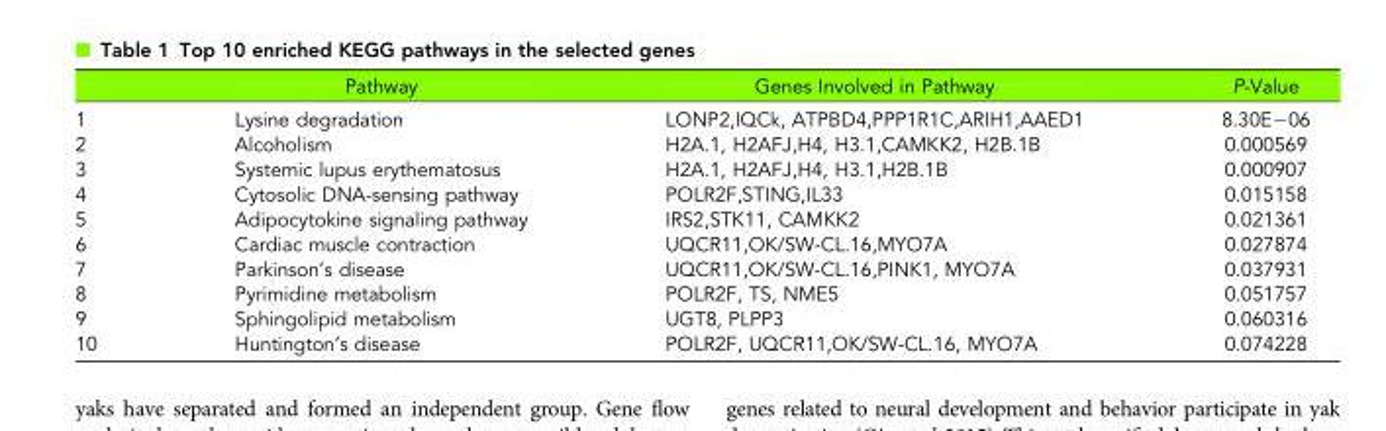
<table><thead><tr><td></td><td>Pathway</td><td>Genes Involved in Pathway</td><td>P-Value</td></tr></thead><tbody><tr><td>1</td><td>Lysine degradation</td><td>LONP2,IQCk, ATPBD4,PPP1R1C,ARIH1,AAED1</td><td>8.30E−06</td></tr><tr><td>2</td><td>Alcoholism</td><td>H2A.1, H2AFJ,H4, H3.1,CAMKK2, H2B.1B</td><td>0.000569</td></tr><tr><td>3</td><td>Systemic lupus erythematosus</td><td>H2A.1, H2AFJ,H4, H3.1,H2B.1B</td><td>0.000907</td></tr><tr><td>4</td><td>Cytosolic DNA-sensing pathway</td><td>POLR2F,STING,IL33</td><td>0.015158</td></tr><tr><td>5</td><td>Adipocytokine signaling pathway</td><td>IRS2,STK11, CAMKK2</td><td>0.021361</td></tr><tr><td>6</td><td>Cardiac muscle contraction</td><td>UQCR11,OK/SW-CL.16,MYO7A</td><td>0.027874</td></tr><tr><td>7</td><td>Parkinson’s disease</td><td>UQCR11,OK/SW-CL.16,PINK1, MYO7A</td><td>0.037931</td></tr><tr><td>8</td><td>Pyrimidine metabolism</td><td>POLR2F, TS, NME5</td><td>0.051757</td></tr><tr><td>9</td><td>Sphingolipid metabolism</td><td>UGT8, PLPP3</td><td>0.060316</td></tr><tr><td>10</td><td>Huntington’s disease</td><td>POLR2F, UQCR11,OK/SW-CL.16, MYO7A</td><td>0.074228</td></tr></tbody></table>